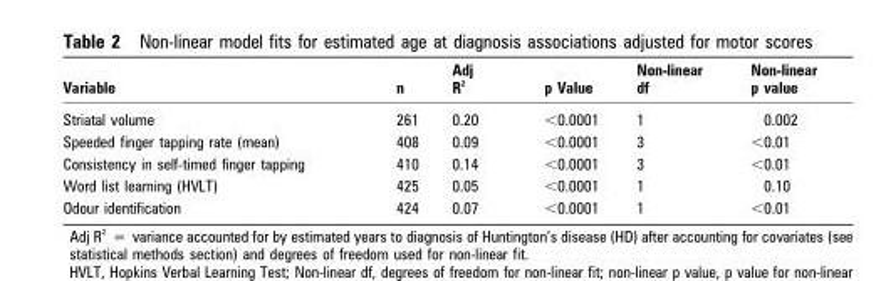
<table><thead><tr><td>Variable</td><td>n</td><td>Adj R <sup>2</sup></td><td>p Value</td><td>Non-linear df</td><td>Non-linear p value</td></tr></thead><tbody><tr><td>Striatal volume</td><td>261</td><td>0.20</td><td>&lt;0.0001</td><td>1</td><td>0.002</td></tr><tr><td>Speeded finger tapping rate (mean)</td><td>408</td><td>0.09</td><td>&lt;0.0001</td><td>3</td><td>&lt;0.01</td></tr><tr><td>Consistency in self-timed finger tapping</td><td>410</td><td>0.14</td><td>&lt;0.0001</td><td>3</td><td>&lt;0.01</td></tr><tr><td>Word list learning (HVLT)</td><td>425</td><td>0.05</td><td>&lt;0.0001</td><td>1</td><td>0.10</td></tr><tr><td>Odour identification</td><td>424</td><td>0.07</td><td>&lt;0.0001</td><td>1</td><td>&lt;0.01</td></tr></tbody></table>